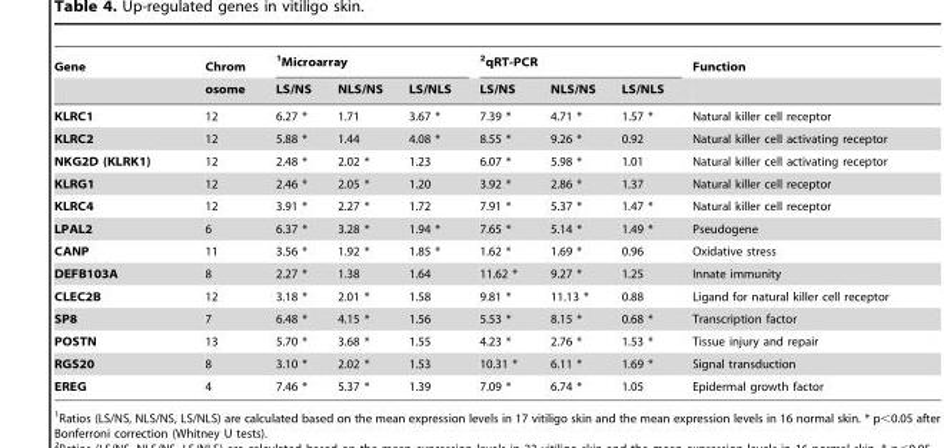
<table><thead><tr><td rowspan="2">Gene</td><td rowspan="2">Chrom osome</td><td colspan="3">1Microarray</td><td colspan="3">2qRT-PCR</td><td rowspan="2">Function</td></tr><tr><td>LS/NS</td><td>NLS/NS</td><td>LS/NLS</td><td>LS/NS</td><td>NLS/NS</td><td>LS/NLS</td></tr></thead><tbody><tr><td>KLRC1</td><td>12</td><td>6.27 *</td><td>1.71</td><td>3.67 *</td><td>7.39 *</td><td>4.71 *</td><td>1.57 *</td><td>Natural killer cell receptor</td></tr><tr><td>KLRC2</td><td>12</td><td>5.88 *</td><td>1.44</td><td>4.08 *</td><td>8.55 *</td><td>9.26 *</td><td>0.92</td><td>Natural killer cell activating receptor</td></tr><tr><td>NKG2D (KLRK1)</td><td>12</td><td>2.48 *</td><td>2.02 *</td><td>1.23</td><td>6.07 *</td><td>5.98 *</td><td>1.01</td><td>Natural killer cell activating receptor</td></tr><tr><td>KLRG1</td><td>12</td><td>2.46 *</td><td>2.05 *</td><td>1.20</td><td>3.92 *</td><td>2.86 *</td><td>1.37</td><td>Natural killer cell receptor</td></tr><tr><td>KLRC4</td><td>12</td><td>3.91 *</td><td>2.27 *</td><td>1.72</td><td>7.91 *</td><td>5.37 *</td><td>1.47 *</td><td>Natural killer cell receptor</td></tr><tr><td>LPAL2</td><td>6</td><td>6.37 *</td><td>3.28 *</td><td>1.94 *</td><td>7.65 *</td><td>5.14 *</td><td>1.49 *</td><td>Pseudogene</td></tr><tr><td>CANP</td><td>11</td><td>3.56 *</td><td>1.92 *</td><td>1.85 *</td><td>1.62 *</td><td>1.69 *</td><td>0.96</td><td>Oxidative stress</td></tr><tr><td>DEFB103A</td><td>8</td><td>2.27 *</td><td>1.38</td><td>1.64</td><td>11.62 *</td><td>9.27 *</td><td>1.25</td><td>Innate immunity</td></tr><tr><td>CLEC2B</td><td>12</td><td>3.18 *</td><td>2.01 *</td><td>1.58</td><td>9.81 *</td><td>11.13 *</td><td>0.88</td><td>Ligand for natural killer cell receptor</td></tr><tr><td>SP8</td><td>7</td><td>6.48 *</td><td>4.15 *</td><td>1.56</td><td>5.53 *</td><td>8.15 *</td><td>0.68 *</td><td>Transcription factor</td></tr><tr><td>POSTN</td><td>13</td><td>5.70 *</td><td>3.68 *</td><td>1.55</td><td>4.23 *</td><td>2.76 *</td><td>1.53 *</td><td>Tissue injury and repair</td></tr><tr><td>RGS20</td><td>8</td><td>3.10 *</td><td>2.02 *</td><td>1.53</td><td>10.31 *</td><td>6.11 *</td><td>1.69 *</td><td>Signal transduction</td></tr><tr><td>EREG</td><td>4</td><td>7.46 *</td><td>5.37 *</td><td>1.39</td><td>7.09 *</td><td>6.74 *</td><td>1.05</td><td>Epidermal growth factor</td></tr></tbody></table>